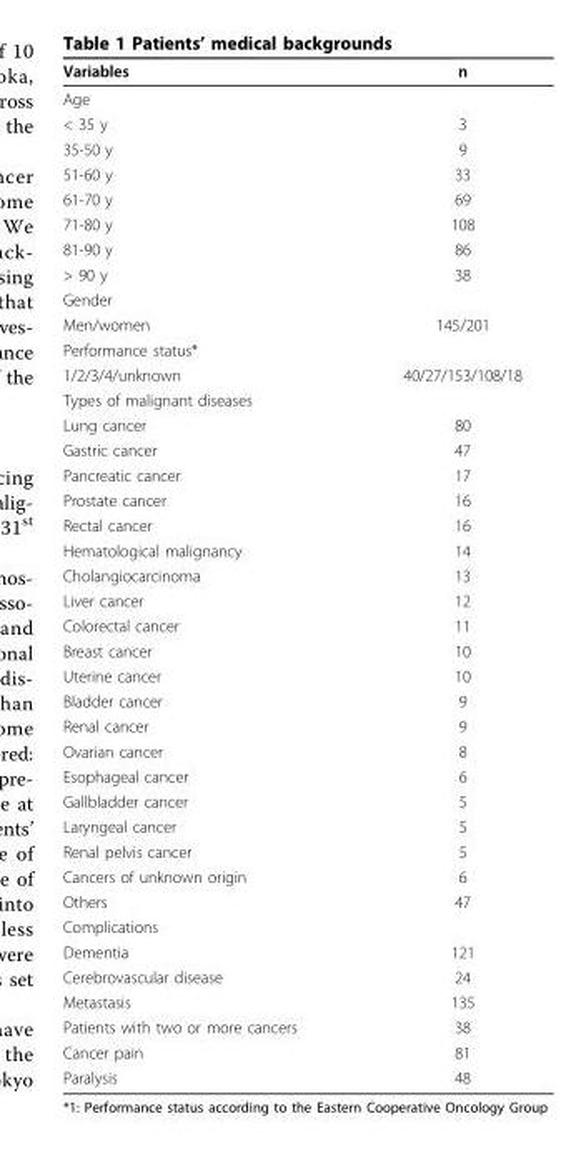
<table><thead><tr><td>Variables</td><td>n</td></tr></thead><tbody><tr><td colspan="2">Age</td></tr><tr><td>&lt; 35 y</td><td>3</td></tr><tr><td>35-50 y</td><td>9</td></tr><tr><td>51-60 y</td><td>33</td></tr><tr><td>61-70 y</td><td>69</td></tr><tr><td>71-80 y</td><td>108</td></tr><tr><td>81-90 y</td><td>86</td></tr><tr><td>&gt; 90 y</td><td>38</td></tr><tr><td colspan="2">Gender</td></tr><tr><td>Men/women</td><td>145/201</td></tr><tr><td colspan="2">Performance status*</td></tr><tr><td>1/2/3/4/unknown</td><td>40/27/153/108/18</td></tr><tr><td colspan="2">Types of malignant diseases</td></tr><tr><td>Lung cancer</td><td>80</td></tr><tr><td>Gastric cancer</td><td>47</td></tr><tr><td>Pancreatic cancer</td><td>17</td></tr><tr><td>Prostate cancer</td><td>16</td></tr><tr><td>Rectal cancer</td><td>16</td></tr><tr><td>Hematological malignancy</td><td>14</td></tr><tr><td>Cholangiocarcinoma</td><td>13</td></tr><tr><td>Liver cancer</td><td>12</td></tr><tr><td>Colorectal cancer</td><td>11</td></tr><tr><td>Breast cancer</td><td>10</td></tr><tr><td>Uterine cancer</td><td>10</td></tr><tr><td>Bladder cancer</td><td>9</td></tr><tr><td>Renal cancer</td><td>9</td></tr><tr><td>Ovarian cancer</td><td>8</td></tr><tr><td>Esophageal cancer</td><td>6</td></tr><tr><td>Gallbladder cancer</td><td>5</td></tr><tr><td>Laryngeal cancer</td><td>5</td></tr><tr><td>Renal pelvis cancer</td><td>5</td></tr><tr><td>Cancers of unknown origin</td><td>6</td></tr><tr><td>Others</td><td>47</td></tr><tr><td colspan="2">Complications</td></tr><tr><td>Dementia</td><td>121</td></tr><tr><td>Cerebrovascular disease</td><td>24</td></tr><tr><td>Metastasis</td><td>135</td></tr><tr><td>Patients with two or more cancers</td><td>38</td></tr><tr><td>Cancer pain</td><td>81</td></tr><tr><td>Paralysis</td><td>48</td></tr></tbody></table>